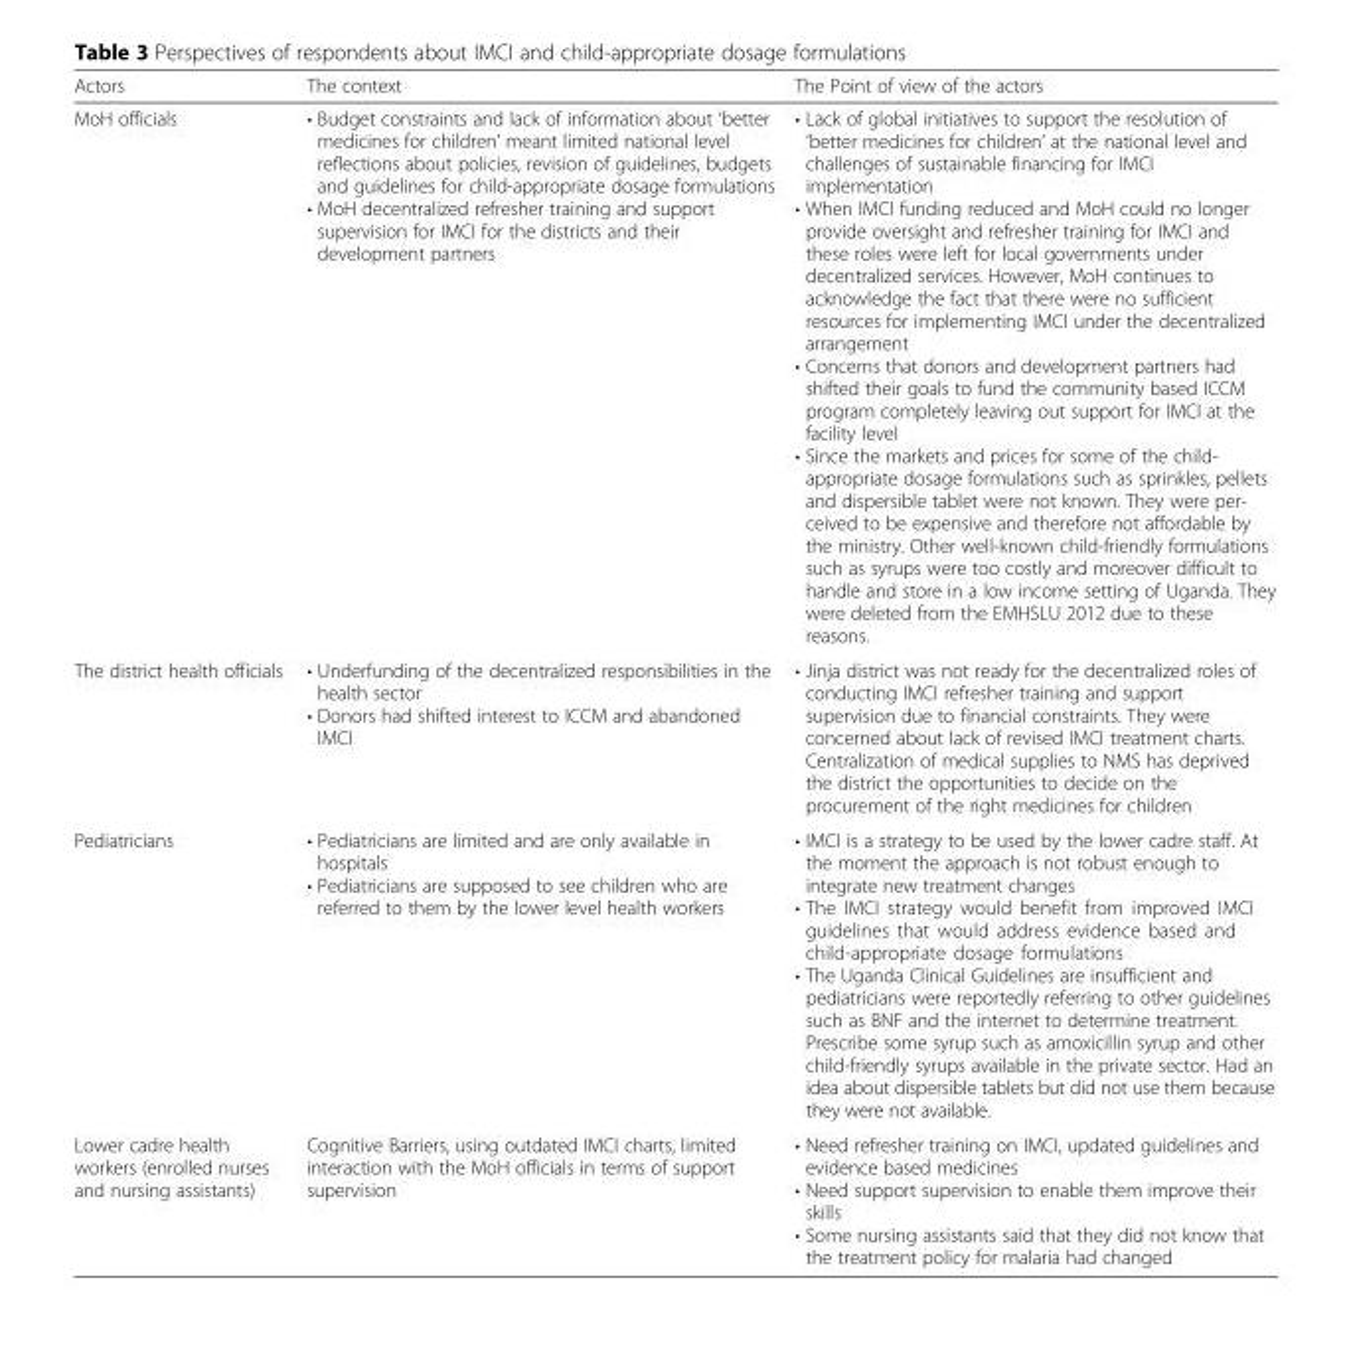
<table><thead><tr><td>Actors</td><td>The context</td><td>The Point of view of the actors</td></tr></thead><tbody><tr><td>MoH officials</td><td>• Budget constraints and lack of information about ‘better medicines for children’ meant limited national level reflections about policies, revision of guidelines, budgets and guidelines for child-appropriate dosage formulations • MoH decentralized refresher training and support supervision for IMCI for the districts and their development partners</td><td>• Lack of global initiatives to support the resolution of ‘better medicines for children’ at the national level and challenges of sustainable financing for IMCI implementation • When IMCI funding reduced and MoH could no longer provide oversight and refresher training for IMCI and these roles were left for local governments under decentralized services. However, MoH continues to acknowledge the fact that there were no sufficient resources for implementing IMCI under the decentralized arrangement • Concerns that donors and development partners had shifted their goals to fund the community based ICCM program completely leaving out support for IMCI at the facility level • Since the markets and prices for some of the child- appropriate dosage formulations such as sprinkles, pellets and dispersible tablet were not known. They were per- ceived to be expensive and therefore not affordable by the ministry. Other well-known child-friendly formulations such as syrups were too costly and moreover difficult to handle and store in a low income setting of Uganda. They were deleted from the EMHSLU 2012 due to these reasons.</td></tr><tr><td>The district health officials</td><td>• Underfunding of the decentralized responsibilities in the health sector • Donors had shifted interest to ICCM and abandoned IMCI</td><td>• Jinja district was not ready for the decentralized roles of conducting IMCI refresher training and support supervision due to financial constraints. They were concerned about lack of revised IMCI treatment charts. Centralization of medical supplies to NMS has deprived the district the opportunities to decide on the procurement of the right medicines for children</td></tr><tr><td>Pediatricians</td><td>• Pediatricians are limited and are only available in hospitals • Pediatricians are supposed to see children who are referred to them by the lower level health workers</td><td>• IMCI is a strategy to be used by the lower cadre staff. At the moment the approach is not robust enough to integrate new treatment changes • The IMCI strategy would benefit from improved IMCI guidelines that would address evidence based and child-appropriate dosage formulations • The Uganda Clinical Guidelines are insufficient and pediatricians were reportedly referring to other guidelines such as BNF and the internet to determine treatment. Prescribe some syrup such as amoxicillin syrup and other child-friendly syrups available in the private sector. Had an idea about dispersible tablets but did not use them because they were not available.</td></tr><tr><td>Lower cadre health workers (enrolled nurses and nursing assistants)</td><td>Cognitive Barriers, using outdated IMCI charts, limited interaction with the MoH officials in terms of support supervision</td><td>• Need refresher training on IMCI, updated guidelines and evidence based medicines • Need support supervision to enable them improve their skills • Some nursing assistants said that they did not know that the treatment policy for malaria had changed</td></tr></tbody></table>